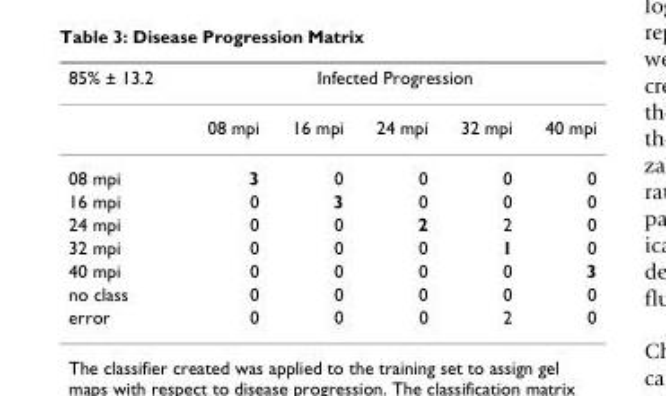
<table><thead><tr><td rowspan="2">85% ± 13.2</td><td colspan="5">Infected Progression</td></tr><tr><td>08 mpi</td><td>16 mpi</td><td>24 mpi</td><td>32 mpi</td><td>40 mpi</td></tr></thead><tbody><tr><td>08 mpi</td><td>3</td><td>0</td><td>0</td><td>0</td><td>0</td></tr><tr><td>16 mpi</td><td>0</td><td>3</td><td>0</td><td>0</td><td>0</td></tr><tr><td>24 mpi</td><td>0</td><td>0</td><td>2</td><td>2</td><td>0</td></tr><tr><td>32 mpi</td><td>0</td><td>0</td><td>0</td><td>1</td><td>0</td></tr><tr><td>40 mpi</td><td>0</td><td>0</td><td>0</td><td>0</td><td>3</td></tr><tr><td>no class</td><td>0</td><td>0</td><td>0</td><td>0</td><td>0</td></tr><tr><td>error</td><td>0</td><td>0</td><td>0</td><td>2</td><td>0</td></tr></tbody></table>